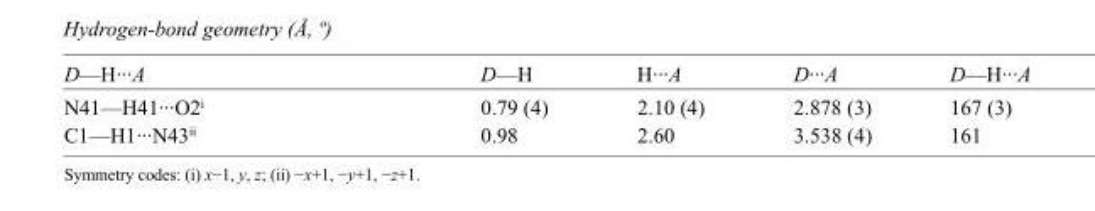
<table><tbody><tr><td>D—H···A</td><td>D—H</td><td>H···A</td><td>D···A</td><td>D—H···A</td></tr><tr><td>N41—H41···O2<sup>i</sup></td><td>0.79 (4)</td><td>2.10 (4)</td><td>2.878 (3)</td><td>167 (3)</td></tr><tr><td>C1—H1···N43<sup>ii</sup></td><td>0.98</td><td>2.60</td><td>3.538 (4)</td><td>161</td></tr></tbody></table>